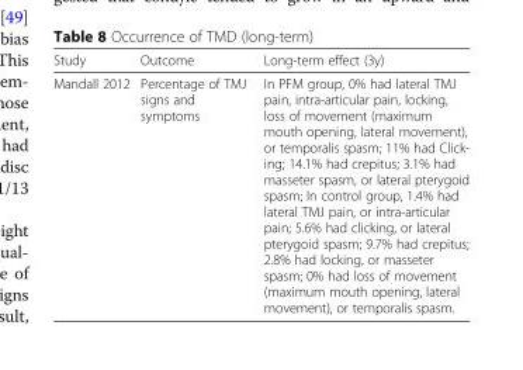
<table><thead><tr><td>Study</td><td>Outcome</td><td>Long-term effect (3y)</td></tr></thead><tbody><tr><td>Mandall 2012</td><td>Percentage of TMJ signs and symptoms</td><td>In PFM group, 0% had lateral TMJ pain, intra-articular pain, locking, loss of movement (maximum mouth opening, lateral movement), or temporalis spasm; 11% had Click- ing; 14.1% had crepitus; 3.1% had masseter spasm, or lateral pterygoid spasm; In control group, 1.4% had lateral TMJ pain, or intra-articular pain; 5.6% had clicking, or lateral pterygoid spasm; 9.7% had crepitus; 2.8% had locking, or masseter spasm; 0% had loss of movement (maximum mouth opening, lateral movement), or temporalis spasm.</td></tr></tbody></table>